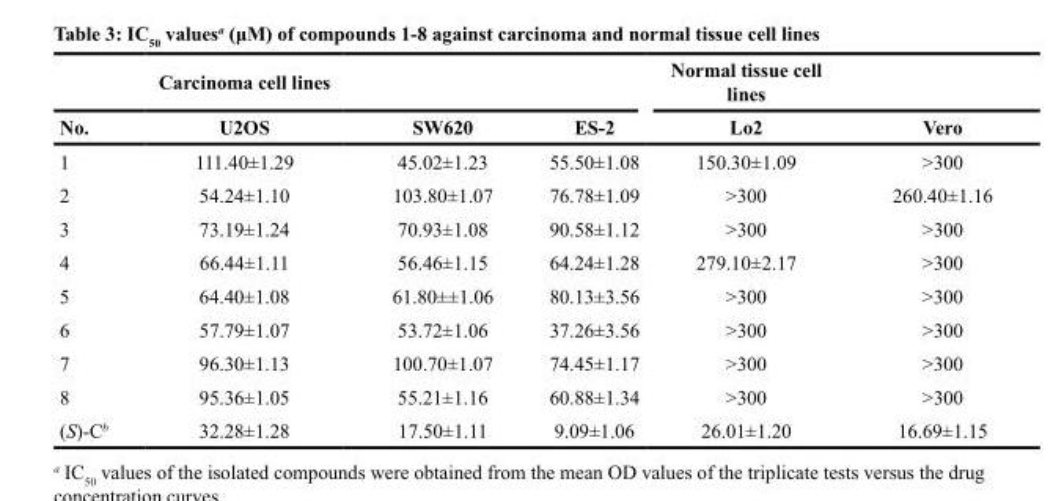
<table><thead><tr><td rowspan="2">No.</td><td rowspan="2">Carcinoma cell lines U2OS</td><td rowspan="2">SW620</td><td rowspan="2">ES-2</td><td rowspan="2">Normal tissue cell lines Lo2</td><td rowspan="2">Vero</td></tr><tr></tr></thead><tbody><tr><td>1</td><td>111.40±1.29</td><td>45.02±1.23</td><td>55.50±1.08</td><td>150.30±1.09</td><td>&gt;300</td></tr><tr><td>2</td><td>54.24±1.10</td><td>103.80±1.07</td><td>76.78±1.09</td><td>&gt;300</td><td>260.40±1.16</td></tr><tr><td>3</td><td>73.19±1.24</td><td>70.93±1.08</td><td>90.58±1.12</td><td>&gt;300</td><td>&gt;300</td></tr><tr><td>4</td><td>66.44±1.11</td><td>56.46±1.15</td><td>64.24±1.28</td><td>279.10±2.17</td><td>&gt;300</td></tr><tr><td>5</td><td>64.40±1.08</td><td>61.80±±1.06</td><td>80.13±3.56</td><td>&gt;300</td><td>&gt;300</td></tr><tr><td>6</td><td>57.79±1.07</td><td>53.72±1.06</td><td>37.26±3.56</td><td>&gt;300</td><td>&gt;300</td></tr><tr><td>7</td><td>96.30±1.13</td><td>100.70±1.07</td><td>74.45±1.17</td><td>&gt;300</td><td>&gt;300</td></tr><tr><td>8</td><td>95.36±1.05</td><td>55.21±1.16</td><td>60.88±1.34</td><td>&gt;300</td><td>&gt;300</td></tr><tr><td>(S)-C<sup>b</sup></td><td>32.28±1.28</td><td>17.50±1.11</td><td>9.09±1.06</td><td>26.01±1.20</td><td>16.69±1.15</td></tr></tbody></table>